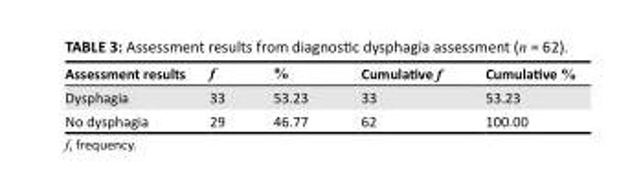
<table><thead><tr><td>Assessment results</td><td>f</td><td>%</td><td>Cumulative f</td><td>Cumulative %</td></tr></thead><tbody><tr><td>Dysphagia</td><td>33</td><td>53.23</td><td>33</td><td>53.23</td></tr><tr><td>No dysphagia</td><td>29</td><td>46.77</td><td>62</td><td>100.00</td></tr></tbody></table>